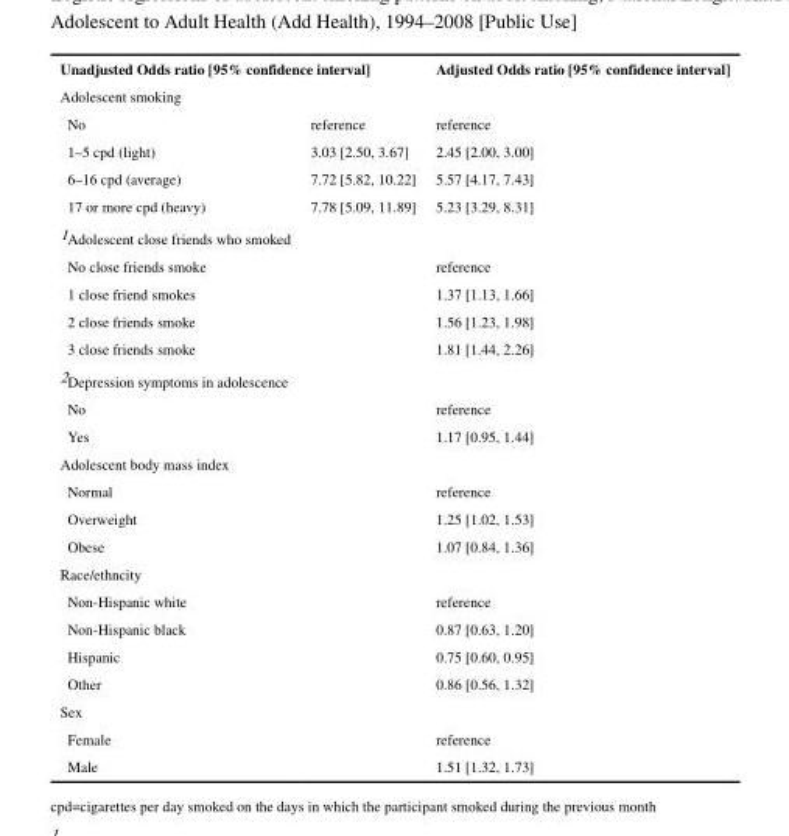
<table><thead><tr><td colspan="2">Unadjusted Odds ratio [95% confidence interval]</td><td rowspan="2">Adjusted Odds ratio [95% confidence interval]</td></tr><tr><td>Adolescent smoking</td><td></td></tr></thead><tbody><tr><td>No</td><td>reference</td><td>reference</td></tr><tr><td>1–5 cpd (light)</td><td>3.03 [2.50, 3.67]</td><td>2.45 [2.00, 3.00]</td></tr><tr><td>6–16 cpd (average)</td><td>7.72 [5.82, 10.22]</td><td>5.57 [4.17, 7.43]</td></tr><tr><td>17 or more cpd (heavy)</td><td>7.78 [5.09, 11.89]</td><td>5.23 [3.29, 8.31]</td></tr><tr><td colspan="3">1Adolescent close friends who smoked</td></tr><tr><td>No close friends smoke</td><td></td><td>reference</td></tr><tr><td>1 close friend smokes</td><td></td><td>1.37 [1.13, 1.66]</td></tr><tr><td>2 close friends smoke</td><td></td><td>1.56 [1.23, 1.98]</td></tr><tr><td>3 close friends smoke</td><td></td><td>1.81 [1.44, 2.26]</td></tr><tr><td colspan="3">2Depression symptoms in adolescence</td></tr><tr><td>No</td><td></td><td>reference</td></tr><tr><td>Yes</td><td></td><td>1.17 [0.95, 1.44]</td></tr><tr><td colspan="3">Adolescent body mass index</td></tr><tr><td>Normal</td><td></td><td>reference</td></tr><tr><td>Overweight</td><td></td><td>1.25 [1.02, 1.53]</td></tr><tr><td>Obese</td><td></td><td>1.07 [0.84, 1.36]</td></tr><tr><td colspan="3">Race/ethncity</td></tr><tr><td>Non-Hispanic white</td><td></td><td>reference</td></tr><tr><td>Non-Hispanic black</td><td></td><td>0.87 [0.63, 1.20]</td></tr><tr><td>Hispanic</td><td></td><td>0.75 [0.60, 0.95]</td></tr><tr><td>Other</td><td></td><td>0.86 [0.56, 1.32]</td></tr><tr><td colspan="3">Sex</td></tr><tr><td>Female</td><td></td><td>reference</td></tr><tr><td>Male</td><td></td><td>1.51 [1.32, 1.73]</td></tr></tbody></table>